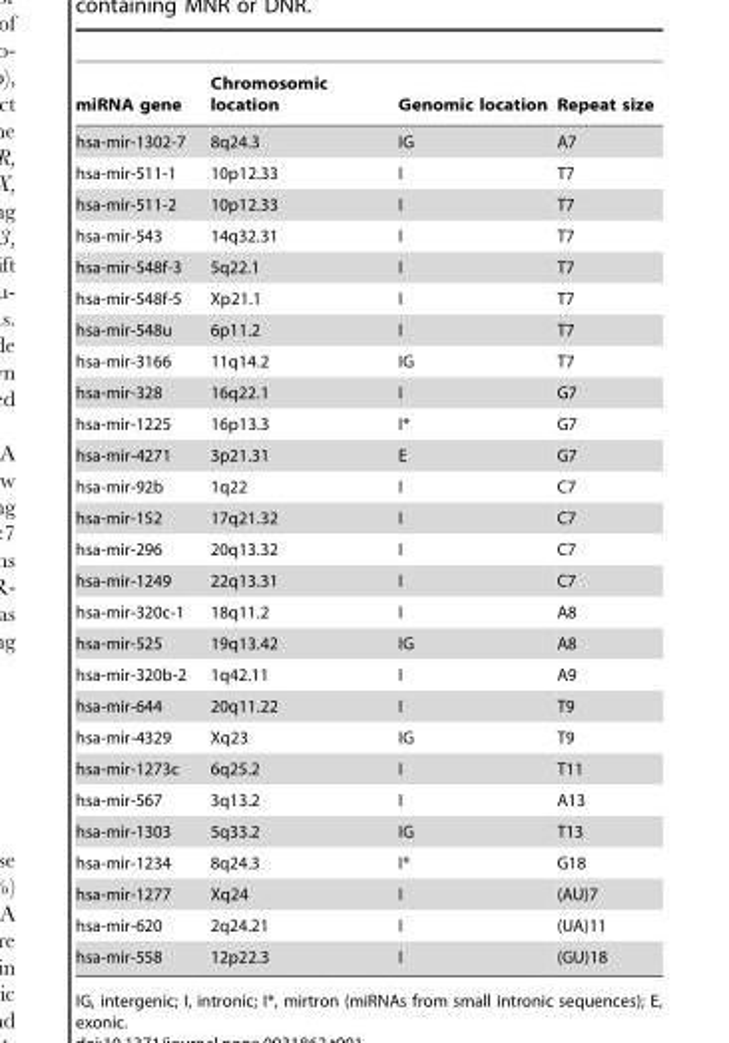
<table><thead><tr><td>miRNA gene</td><td>Chromosomic location</td><td>Genomic location</td><td>Repeat size</td></tr></thead><tbody><tr><td>hsa-mir-1302-7</td><td>8q24.3</td><td>IG</td><td>A7</td></tr><tr><td>hsa-mir-511-1</td><td>10p12.33</td><td>I</td><td>T7</td></tr><tr><td>hsa-mir-511-2</td><td>10p12.33</td><td>I</td><td>T7</td></tr><tr><td>hsa-mir-543</td><td>14q32.31</td><td>I</td><td>T7</td></tr><tr><td>hsa-mir-548f-3</td><td>5q22.1</td><td>I</td><td>T7</td></tr><tr><td>hsa-mir-548f-5</td><td>Xp21.1</td><td>I</td><td>T7</td></tr><tr><td>hsa-mir-548u</td><td>6p11.2</td><td>I</td><td>T7</td></tr><tr><td>hsa-mir-3166</td><td>11q14.2</td><td>IG</td><td>T7</td></tr><tr><td>hsa-mir-328</td><td>16q22.1</td><td>I</td><td>G7</td></tr><tr><td>hsa-mir-1225</td><td>16p13.3</td><td>I*</td><td>G7</td></tr><tr><td>hsa-mir-4271</td><td>3p21.31</td><td>E</td><td>G7</td></tr><tr><td>hsa-mir-92b</td><td>1q22</td><td>I</td><td>C7</td></tr><tr><td>hsa-mir-152</td><td>17q21.32</td><td>I</td><td>C7</td></tr><tr><td>hsa-mir-296</td><td>20q13.32</td><td>I</td><td>C7</td></tr><tr><td>hsa-mir-1249</td><td>22q13.31</td><td>I</td><td>C7</td></tr><tr><td>hsa-mir-320c-1</td><td>18q11.2</td><td>I</td><td>A8</td></tr><tr><td>hsa-mir-525</td><td>19q13.42</td><td>IG</td><td>A8</td></tr><tr><td>hsa-mir-320b-2</td><td>1q42.11</td><td>I</td><td>A9</td></tr><tr><td>hsa-mir-644</td><td>20q11.22</td><td>I</td><td>T9</td></tr><tr><td>hsa-mir-4329</td><td>Xq23</td><td>IG</td><td>T9</td></tr><tr><td>hsa-mir-1273c</td><td>6q25.2</td><td>I</td><td>T11</td></tr><tr><td>hsa-mir-567</td><td>3q13.2</td><td>I</td><td>A13</td></tr><tr><td>hsa-mir-1303</td><td>5q33.2</td><td>IG</td><td>T13</td></tr><tr><td>hsa-mir-1234</td><td>8q24.3</td><td>I*</td><td>G18</td></tr><tr><td>hsa-mir-1277</td><td>Xq24</td><td>I</td><td>(AU)7</td></tr><tr><td>hsa-mir-620</td><td>2q24.21</td><td>I</td><td>(UA)11</td></tr><tr><td>hsa-mir-558</td><td>12p22.3</td><td>I</td><td>(GU)18</td></tr></tbody></table>